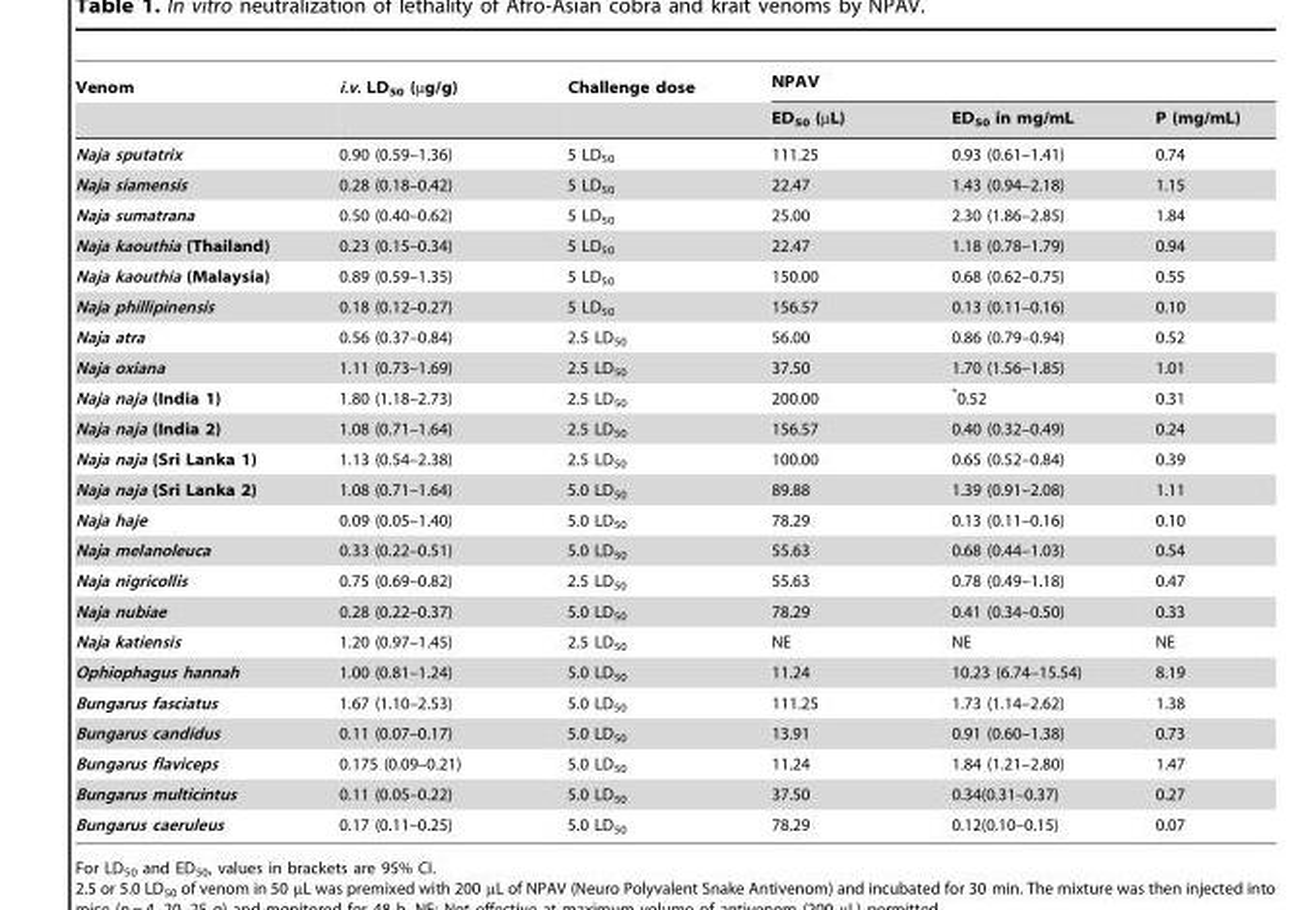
<table><thead><tr><td rowspan="2">Venom</td><td rowspan="2">i.v. LD<sub>50</sub> (µg/g)</td><td rowspan="2">Challenge dose</td><td colspan="3">NPAV</td></tr><tr><td>ED<sub>50</sub> (µL)</td><td>ED<sub>50</sub> in mg/mL</td><td>P (mg/mL)</td></tr></thead><tbody><tr><td>Naja sputatrix</td><td>0.90 (0.59–1.36)</td><td>5 LD<sub>50</sub></td><td>111.25</td><td>0.93 (0.61–1.41)</td><td>0.74</td></tr><tr><td>Naja siamensis</td><td>0.28 (0.18–0.42)</td><td>5 LD<sub>50</sub></td><td>22.47</td><td>1.43 (0.94–2.18)</td><td>1.15</td></tr><tr><td>Naja sumatrana</td><td>0.50 (0.40–0.62)</td><td>5 LD<sub>50</sub></td><td>25.00</td><td>2.30 (1.86–2.85)</td><td>1.84</td></tr><tr><td>Naja kaouthia (Thailand)</td><td>0.23 (0.15–0.34)</td><td>5 LD<sub>50</sub></td><td>22.47</td><td>1.18 (0.78–1.79)</td><td>0.94</td></tr><tr><td>Naja kaouthia (Malaysia)</td><td>0.89 (0.59–1.35)</td><td>5 LD<sub>50</sub></td><td>150.00</td><td>0.68 (0.62–0.75)</td><td>0.55</td></tr><tr><td>Naja phillipinensis</td><td>0.18 (0.12–0.27)</td><td>5 LD<sub>50</sub></td><td>156.57</td><td>0.13 (0.11–0.16)</td><td>0.10</td></tr><tr><td>Naja atra</td><td>0.56 (0.37–0.84)</td><td>2.5 LD<sub>50</sub></td><td>56.00</td><td>0.86 (0.79–0.94)</td><td>0.52</td></tr><tr><td>Naja oxiana</td><td>1.11 (0.73–1.69)</td><td>2.5 LD<sub>50</sub></td><td>37.50</td><td>1.70 (1.56–1.85)</td><td>1.01</td></tr><tr><td>Naja naja (India 1)</td><td>1.80 (1.18–2.73)</td><td>2.5 LD<sub>50</sub></td><td>200.00</td><td>*0.52</td><td>0.31</td></tr><tr><td>Naja naja (India 2)</td><td>1.08 (0.71–1.64)</td><td>2.5 LD<sub>50</sub></td><td>156.57</td><td>0.40 (0.32–0.49)</td><td>0.24</td></tr><tr><td>Naja naja (Sri Lanka 1)</td><td>1.13 (0.54–2.38)</td><td>2.5 LD<sub>50</sub></td><td>100.00</td><td>0.65 (0.52–0.84)</td><td>0.39</td></tr><tr><td>Naja naja (Sri Lanka 2)</td><td>1.08 (0.71–1.64)</td><td>5.0 LD<sub>50</sub></td><td>89.88</td><td>1.39 (0.91–2.08)</td><td>1.11</td></tr><tr><td>Naja haje</td><td>0.09 (0.05–1.40)</td><td>5.0 LD<sub>50</sub></td><td>78.29</td><td>0.13 (0.11–0.16)</td><td>0.10</td></tr><tr><td>Naja melanoleuca</td><td>0.33 (0.22–0.51)</td><td>5.0 LD<sub>50</sub></td><td>55.63</td><td>0.68 (0.44–1.03)</td><td>0.54</td></tr><tr><td>Naja nigricollis</td><td>0.75 (0.69–0.82)</td><td>2.5 LD<sub>50</sub></td><td>55.63</td><td>0.78 (0.49–1.18)</td><td>0.47</td></tr><tr><td>Naja nubiae</td><td>0.28 (0.22–0.37)</td><td>5.0 LD<sub>50</sub></td><td>78.29</td><td>0.41 (0.34–0.50)</td><td>0.33</td></tr><tr><td>Naja katiensis</td><td>1.20 (0.97–1.45)</td><td>2.5 LD<sub>50</sub></td><td>NE</td><td>NE</td><td>NE</td></tr><tr><td>Ophiophagus hannah</td><td>1.00 (0.81–1.24)</td><td>5.0 LD<sub>50</sub></td><td>11.24</td><td>10.23 (6.74–15.54)</td><td>8.19</td></tr><tr><td>Bungarus fasciatus</td><td>1.67 (1.10–2.53)</td><td>5.0 LD<sub>50</sub></td><td>111.25</td><td>1.73 (1.14–2.62)</td><td>1.38</td></tr><tr><td>Bungarus candidus</td><td>0.11 (0.07–0.17)</td><td>5.0 LD<sub>50</sub></td><td>13.91</td><td>0.91 (0.60–1.38)</td><td>0.73</td></tr><tr><td>Bungarus flaviceps</td><td>0.175 (0.09–0.21)</td><td>5.0 LD<sub>50</sub></td><td>11.24</td><td>1.84 (1.21–2.80)</td><td>1.47</td></tr><tr><td>Bungarus multicintus</td><td>0.11 (0.05–0.22)</td><td>5.0 LD<sub>50</sub></td><td>37.50</td><td>0.34(0.31–0.37)</td><td>0.27</td></tr><tr><td>Bungarus caeruleus</td><td>0.17 (0.11–0.25)</td><td>5.0 LD<sub>50</sub></td><td>78.29</td><td>0.12(0.10–0.15)</td><td>0.07</td></tr></tbody></table>